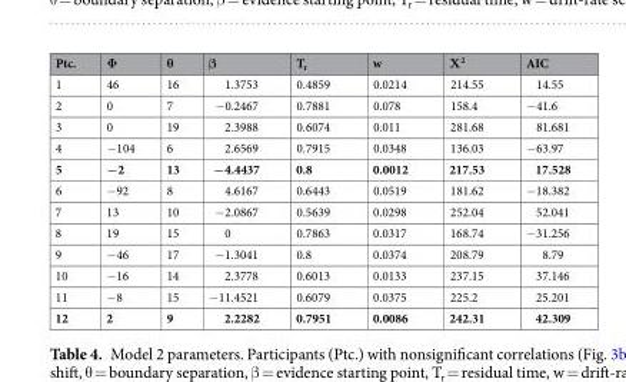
<table><thead><tr><td>Ptc.</td><td>Φ</td><td>θ</td><td>β</td><td>T<sub>r</sub></td><td>w</td><td>Χ<sup>2</sup></td><td>AIC</td></tr></thead><tbody><tr><td>1</td><td>46</td><td>16</td><td>1.3753</td><td>0.4859</td><td>0.0214</td><td>214.55</td><td>14.55</td></tr><tr><td>2</td><td>0</td><td>7</td><td>−0.2467</td><td>0.7881</td><td>0.078</td><td>158.4</td><td>−41.6</td></tr><tr><td>3</td><td>0</td><td>19</td><td>2.3988</td><td>0.6074</td><td>0.011</td><td>281.68</td><td>81.681</td></tr><tr><td>4</td><td>−104</td><td>6</td><td>2.6569</td><td>0.7915</td><td>0.0348</td><td>136.03</td><td>−63.97</td></tr><tr><td>5</td><td>−2</td><td>13</td><td>−4.4437</td><td>0.8</td><td>0.0012</td><td>217.53</td><td>17.528</td></tr><tr><td>6</td><td>−92</td><td>8</td><td>4.6167</td><td>0.6443</td><td>0.0519</td><td>181.62</td><td>−18.382</td></tr><tr><td>7</td><td>13</td><td>10</td><td>−2.0867</td><td>0.5639</td><td>0.0298</td><td>252.04</td><td>52.041</td></tr><tr><td>8</td><td>19</td><td>15</td><td>0</td><td>0.7863</td><td>0.0317</td><td>168.74</td><td>−31.256</td></tr><tr><td>9</td><td>−46</td><td>17</td><td>−1.3041</td><td>0.8</td><td>0.0374</td><td>208.79</td><td>8.79</td></tr><tr><td>10</td><td>−16</td><td>14</td><td>2.3778</td><td>0.6013</td><td>0.0133</td><td>237.15</td><td>37.146</td></tr><tr><td>11</td><td>−8</td><td>15</td><td>−11.4521</td><td>0.6079</td><td>0.0375</td><td>225.2</td><td>25.201</td></tr><tr><td>12</td><td>2</td><td>9</td><td>2.2282</td><td>0.7951</td><td>0.0086</td><td>242.31</td><td>42.309</td></tr></tbody></table>